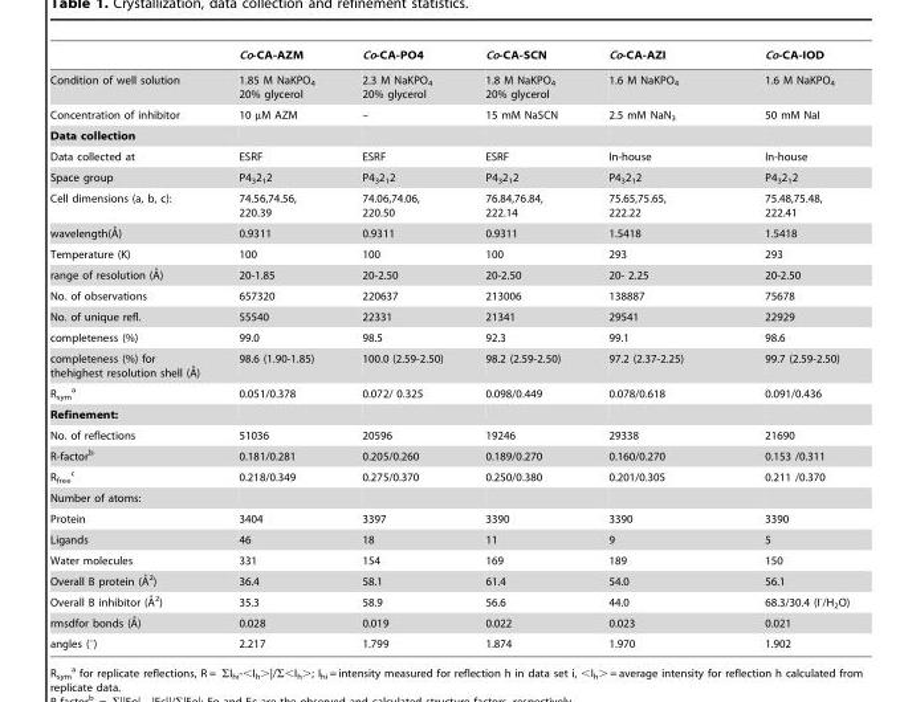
<table><thead><tr><td></td><td>Co-CA-AZM</td><td>Co-CA-PO4</td><td>Co-CA-SCN</td><td>Co-CA-AZI</td><td>Co-CA-IOD</td></tr></thead><tbody><tr><td>Condition of well solution</td><td>1.85 M NaKPO<sub>4</sub> 20% glycerol</td><td>2.3 M NaKPO<sub>4</sub> 20% glycerol</td><td>1.8 M NaKPO<sub>4</sub> 20% glycerol</td><td>1.6 M NaKPO<sub>4</sub></td><td>1.6 M NaKPO<sub>4</sub></td></tr><tr><td>Concentration of inhibitor</td><td>10 µM AZM</td><td>–</td><td>15 mM NaSCN</td><td>2.5 mM NaN<sub>3</sub></td><td>50 mM NaI</td></tr><tr><td colspan="6">Data collection</td></tr><tr><td>Data collected at</td><td>ESRF</td><td>ESRF</td><td>ESRF</td><td>In-house</td><td>In-house</td></tr><tr><td>Space group</td><td>P4<sub>3</sub>2<sub>1</sub>2</td><td>P4<sub>3</sub>2<sub>1</sub>2</td><td>P4<sub>3</sub>2<sub>1</sub>2</td><td>P4<sub>3</sub>2<sub>1</sub>2</td><td>P4<sub>3</sub>2<sub>1</sub>2</td></tr><tr><td>Cell dimensions (a, b, c):</td><td>74.56,74.56, 220.39</td><td>74.06,74.06, 220.50</td><td>76.84,76.84, 222.14</td><td>75.65,75.65, 222.22</td><td>75.48,75.48, 222.41</td></tr><tr><td>wavelength(A˚)</td><td>0.9311</td><td>0.9311</td><td>0.9311</td><td>1.5418</td><td>1.5418</td></tr><tr><td>Temperature (K)</td><td>100</td><td>100</td><td>100</td><td>293</td><td>293</td></tr><tr><td>range of resolution (A˚)</td><td>20-1.85</td><td>20-2.50</td><td>20-2.50</td><td>20- 2.25</td><td>20-2.50</td></tr><tr><td>No. of observations</td><td>657320</td><td>220637</td><td>213006</td><td>138887</td><td>75678</td></tr><tr><td>No. of unique refl.</td><td>55540</td><td>22331</td><td>21341</td><td>29541</td><td>22929</td></tr><tr><td>completeness (%)</td><td>99.0</td><td>98.5</td><td>92.3</td><td>99.1</td><td>98.6</td></tr><tr><td>completeness (%) for thehighest resolution shell (A˚)</td><td>98.6 (1.90-1.85)</td><td>100.0 (2.59-2.50)</td><td>98.2 (2.59-2.50)</td><td>97.2 (2.37-2.25)</td><td>99.7 (2.59-2.50)</td></tr><tr><td>R<sub>sym</sub> <sup>a</sup></td><td>0.051/0.378</td><td>0.072/ 0.325</td><td>0.098/0.449</td><td>0.078/0.618</td><td>0.091/0.436</td></tr><tr><td colspan="6">Refinement:</td></tr><tr><td>No. of reflections</td><td>51036</td><td>20596</td><td>19246</td><td>29338</td><td>21690</td></tr><tr><td>R-factor<sup>b</sup></td><td>0.181/0.281</td><td>0.205/0.260</td><td>0.189/0.270</td><td>0.160/0.270</td><td>0.153 /0.311</td></tr><tr><td>R<sub>free</sub> <sup>c</sup></td><td>0.218/0.349</td><td>0.275/0.370</td><td>0.250/0.380</td><td>0.201/0.305</td><td>0.211 /0.370</td></tr><tr><td colspan="6">Number of atoms:</td></tr><tr><td>Protein</td><td>3404</td><td>3397</td><td>3390</td><td>3390</td><td>3390</td></tr><tr><td>Ligands</td><td>46</td><td>18</td><td>11</td><td>9</td><td>5</td></tr><tr><td>Water molecules</td><td>331</td><td>154</td><td>169</td><td>189</td><td>150</td></tr><tr><td>Overall B protein (A˚ 2)</td><td>36.4</td><td>58.1</td><td>61.4</td><td>54.0</td><td>56.1</td></tr><tr><td>Overall B inhibitor (A˚ 2)</td><td>35.3</td><td>58.9</td><td>56.6</td><td>44.0</td><td>68.3/30.4 (I<sup>-</sup>/H<sub>2</sub>O)</td></tr><tr><td>rmsdfor bonds (A˚)</td><td>0.028</td><td>0.019</td><td>0.022</td><td>0.023</td><td>0.021</td></tr><tr><td>angles (°)</td><td>2.217</td><td>1.799</td><td>1.874</td><td>1.970</td><td>1.902</td></tr></tbody></table>